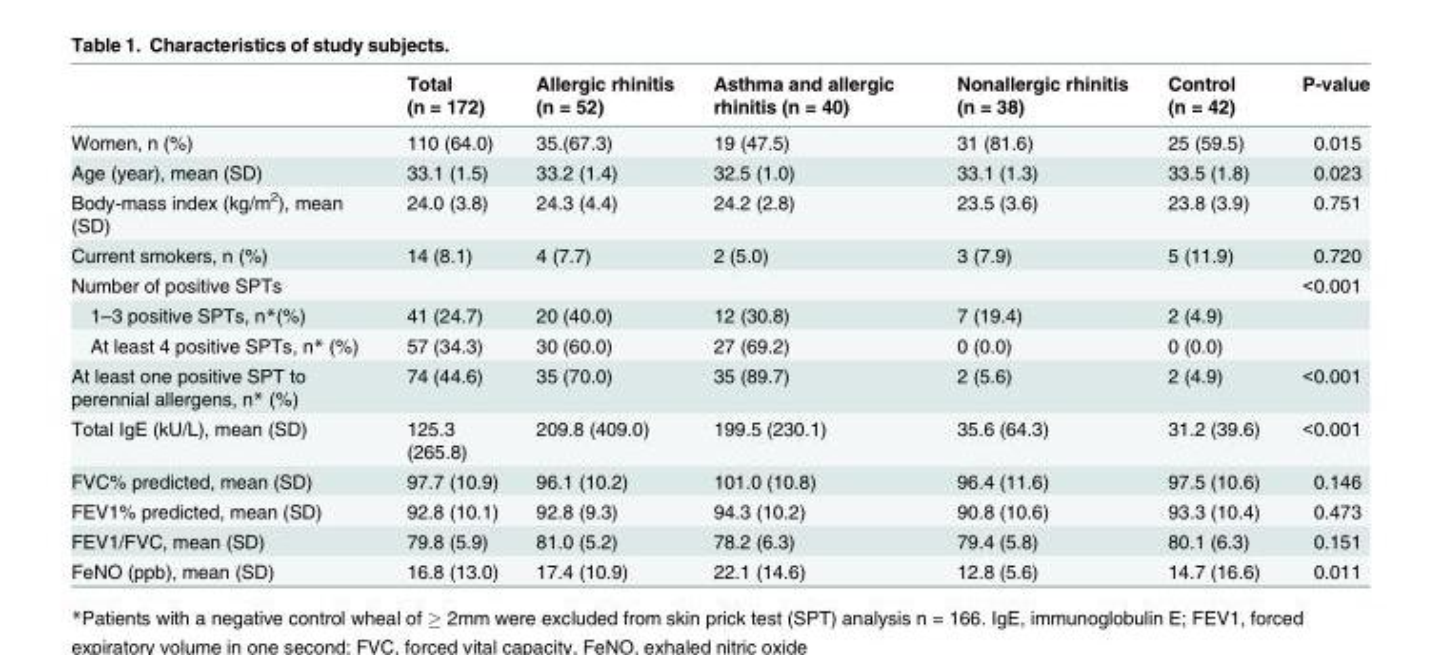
<table><thead><tr><td></td><td>Total (n = 172)</td><td>Allergic rhinitis (n = 52)</td><td>Asthma and allergic rhinitis (n = 40)</td><td>Nonallergic rhinitis (n = 38)</td><td>Control (n = 42)</td><td>P-value</td></tr></thead><tbody><tr><td>Women, n (%)</td><td>110 (64.0)</td><td>35.(67.3)</td><td>19 (47.5)</td><td>31 (81.6)</td><td>25 (59.5)</td><td>0.015</td></tr><tr><td>Age (year), mean (SD)</td><td>33.1 (1.5)</td><td>33.2 (1.4)</td><td>32.5 (1.0)</td><td>33.1 (1.3)</td><td>33.5 (1.8)</td><td>0.023</td></tr><tr><td>Body-mass index (kg/m<sup>2</sup>), mean (SD)</td><td>24.0 (3.8)</td><td>24.3 (4.4)</td><td>24.2 (2.8)</td><td>23.5 (3.6)</td><td>23.8 (3.9)</td><td>0.751</td></tr><tr><td>Current smokers, n (%)</td><td>14 (8.1)</td><td>4 (7.7)</td><td>2 (5.0)</td><td>3 (7.9)</td><td>5 (11.9)</td><td>0.720</td></tr><tr><td>Number of positive SPTs</td><td></td><td></td><td></td><td></td><td></td><td>&lt;0.001</td></tr><tr><td>1–3 positive SPTs, n*(%)</td><td>41 (24.7)</td><td>20 (40.0)</td><td>12 (30.8)</td><td>7 (19.4)</td><td>2 (4.9)</td><td></td></tr><tr><td>At least 4 positive SPTs, n* (%)</td><td>57 (34.3)</td><td>30 (60.0)</td><td>27 (69.2)</td><td>0 (0.0)</td><td>0 (0.0)</td><td></td></tr><tr><td>At least one positive SPT to perennial allergens, n* (%)</td><td>74 (44.6)</td><td>35 (70.0)</td><td>35 (89.7)</td><td>2 (5.6)</td><td>2 (4.9)</td><td>&lt;0.001</td></tr><tr><td>Total IgE (kU/L), mean (SD)</td><td>125.3 (265.8)</td><td>209.8 (409.0)</td><td>199.5 (230.1)</td><td>35.6 (64.3)</td><td>31.2 (39.6)</td><td>&lt;0.001</td></tr><tr><td>FVC% predicted, mean (SD)</td><td>97.7 (10.9)</td><td>96.1 (10.2)</td><td>101.0 (10.8)</td><td>96.4 (11.6)</td><td>97.5 (10.6)</td><td>0.146</td></tr><tr><td>FEV1% predicted, mean (SD)</td><td>92.8 (10.1)</td><td>92.8 (9.3)</td><td>94.3 (10.2)</td><td>90.8 (10.6)</td><td>93.3 (10.4)</td><td>0.473</td></tr><tr><td>FEV1/FVC, mean (SD)</td><td>79.8 (5.9)</td><td>81.0 (5.2)</td><td>78.2 (6.3)</td><td>79.4 (5.8)</td><td>80.1 (6.3)</td><td>0.151</td></tr><tr><td>FeNO (ppb), mean (SD)</td><td>16.8 (13.0)</td><td>17.4 (10.9)</td><td>22.1 (14.6)</td><td>12.8 (5.6)</td><td>14.7 (16.6)</td><td>0.011</td></tr></tbody></table>